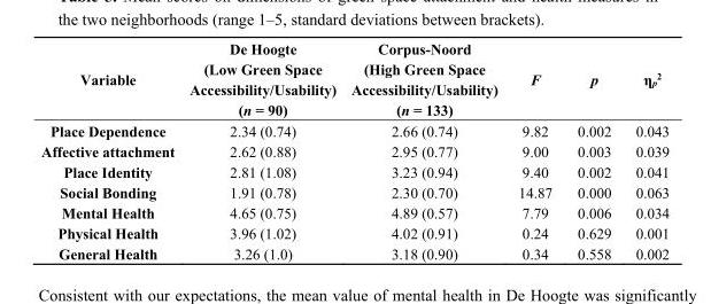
<table><thead><tr><td>Variable</td><td>De Hoogte (Low Green Space Accessibility/Usability) (n = 90)</td><td>Corpus-Noord (High Green Space Accessibility/Usability) (n = 133)</td><td>F</td><td>p</td><td>η<sub>p</sub><sup>2</sup></td></tr></thead><tbody><tr><td>Place Dependence</td><td>2.34 (0.74)</td><td>2.66 (0.74)</td><td>9.82</td><td>0.002</td><td>0.043</td></tr><tr><td>Affective attachment</td><td>2.62 (0.88)</td><td>2.95 (0.77)</td><td>9.00</td><td>0.003</td><td>0.039</td></tr><tr><td>Place Identity</td><td>2.81 (1.08)</td><td>3.23 (0.94)</td><td>9.40</td><td>0.002</td><td>0.041</td></tr><tr><td>Social Bonding</td><td>1.91 (0.78)</td><td>2.30 (0.70)</td><td>14.87</td><td>0.000</td><td>0.063</td></tr><tr><td>Mental Health</td><td>4.65 (0.75)</td><td>4.89 (0.57)</td><td>7.79</td><td>0.006</td><td>0.034</td></tr><tr><td>Physical Health</td><td>3.96 (1.02)</td><td>4.02 (0.91)</td><td>0.24</td><td>0.629</td><td>0.001</td></tr><tr><td>General Health</td><td>3.26 (1.0)</td><td>3.18 (0.90)</td><td>0.34</td><td>0.558</td><td>0.002</td></tr></tbody></table>